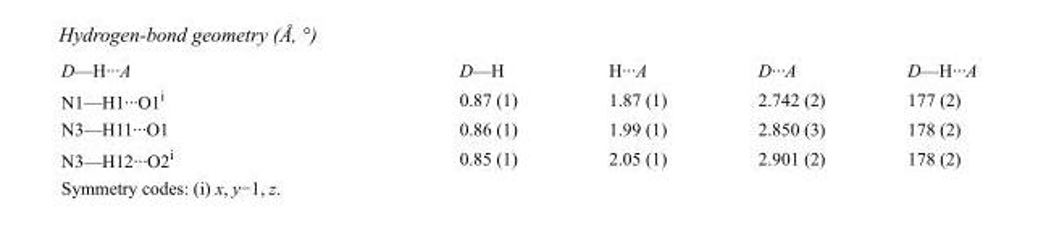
<table><tbody><tr><td>D—H···A</td><td>D—H</td><td>H···A</td><td>D···A</td><td>D—H···A</td></tr><tr><td>N1—H1···O1<sup>i</sup></td><td>0.87 (1)</td><td>1.87 (1)</td><td>2.742 (2)</td><td>177 (2)</td></tr><tr><td>N3—H11···O1</td><td>0.86 (1)</td><td>1.99 (1)</td><td>2.850 (3)</td><td>178 (2)</td></tr><tr><td>N3—H12···O2<sup>i</sup></td><td>0.85 (1)</td><td>2.05 (1)</td><td>2.901 (2)</td><td>178 (2)</td></tr></tbody></table>